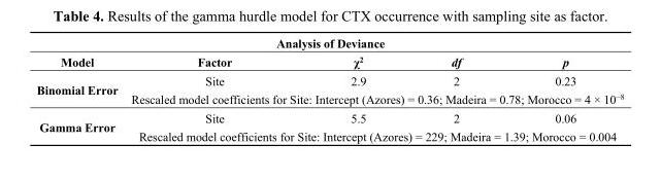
<table><thead><tr><td colspan="5">Analysis of Deviance</td></tr><tr><td>Model</td><td>Factor</td><td>χ<sup>2</sup></td><td>df</td><td>p</td></tr></thead><tbody><tr><td rowspan="2">Binomial Error</td><td>Site</td><td>2.9</td><td>2</td><td>0.23</td></tr><tr><td colspan="4">Rescaled model coefficients for Site: Intercept (Azores) = 0.36; Madeira = 0.78; Morocco = 4 × 10<sup>−8</sup></td></tr><tr><td rowspan="2">Gamma Error</td><td>Site</td><td>5.5</td><td>2</td><td>0.06</td></tr><tr><td colspan="4">Rescaled model coefficients for Site: Intercept (Azores) = 229; Madeira = 1.39; Morocco = 0.004</td></tr></tbody></table>